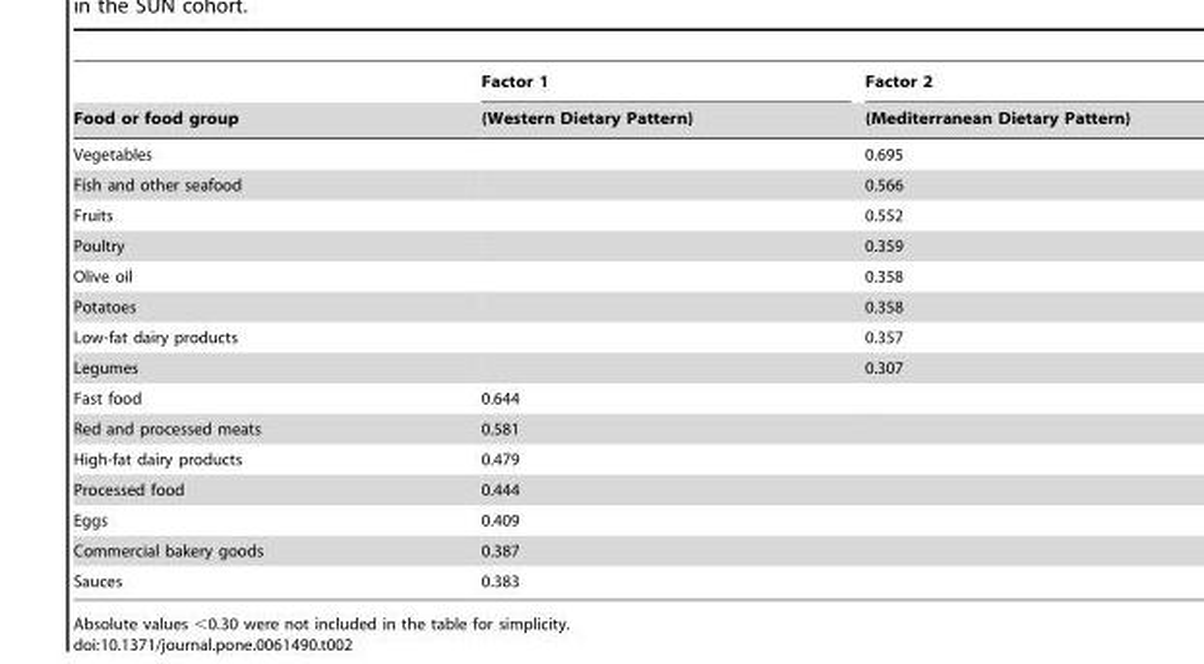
<table><thead><tr><td rowspan="2">Food or food group</td><td rowspan="2">Factor 1 (Western Dietary Pattern)</td><td rowspan="2">Factor 2 (Mediterranean Dietary Pattern)</td></tr><tr></tr></thead><tbody><tr><td>Vegetables</td><td></td><td>0.695</td></tr><tr><td>Fish and other seafood</td><td></td><td>0.566</td></tr><tr><td>Fruits</td><td></td><td>0.552</td></tr><tr><td>Poultry</td><td></td><td>0.359</td></tr><tr><td>Olive oil</td><td></td><td>0.358</td></tr><tr><td>Potatoes</td><td></td><td>0.358</td></tr><tr><td>Low-fat dairy products</td><td></td><td>0.357</td></tr><tr><td>Legumes</td><td></td><td>0.307</td></tr><tr><td>Fast food</td><td>0.644</td><td></td></tr><tr><td>Red and processed meats</td><td>0.581</td><td></td></tr><tr><td>High-fat dairy products</td><td>0.479</td><td></td></tr><tr><td>Processed food</td><td>0.444</td><td></td></tr><tr><td>Eggs</td><td>0.409</td><td></td></tr><tr><td>Commercial bakery goods</td><td>0.387</td><td></td></tr><tr><td>Sauces</td><td>0.383</td><td></td></tr></tbody></table>